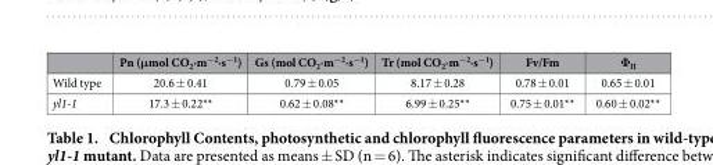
<table><thead><tr><td></td><td>Pn (μmol CO<sub>2</sub>·m<sup>−2</sup>·s<sup>−1</sup>)</td><td>Gs (mol CO<sub>2</sub>·m<sup>−2</sup>·s<sup>−1</sup>)</td><td>Tr (mol CO<sub>2</sub>·m<sup>−2</sup>·s<sup>−1</sup>)</td><td>Fv/Fm</td><td>Φ<sub>II</sub></td></tr></thead><tbody><tr><td>Wild type</td><td>20.6 ± 0.41</td><td>0.79 ± 0.05</td><td>8.17 ± 0.28</td><td>0.78 ± 0.01</td><td>0.65 ± 0.01</td></tr><tr><td>yl1-1</td><td>17.3 ± 0.22**</td><td>0.62 ± 0.08**</td><td>6.99 ± 0.25**</td><td>0.75 ± 0.01**</td><td>0.60 ± 0.02**</td></tr></tbody></table>